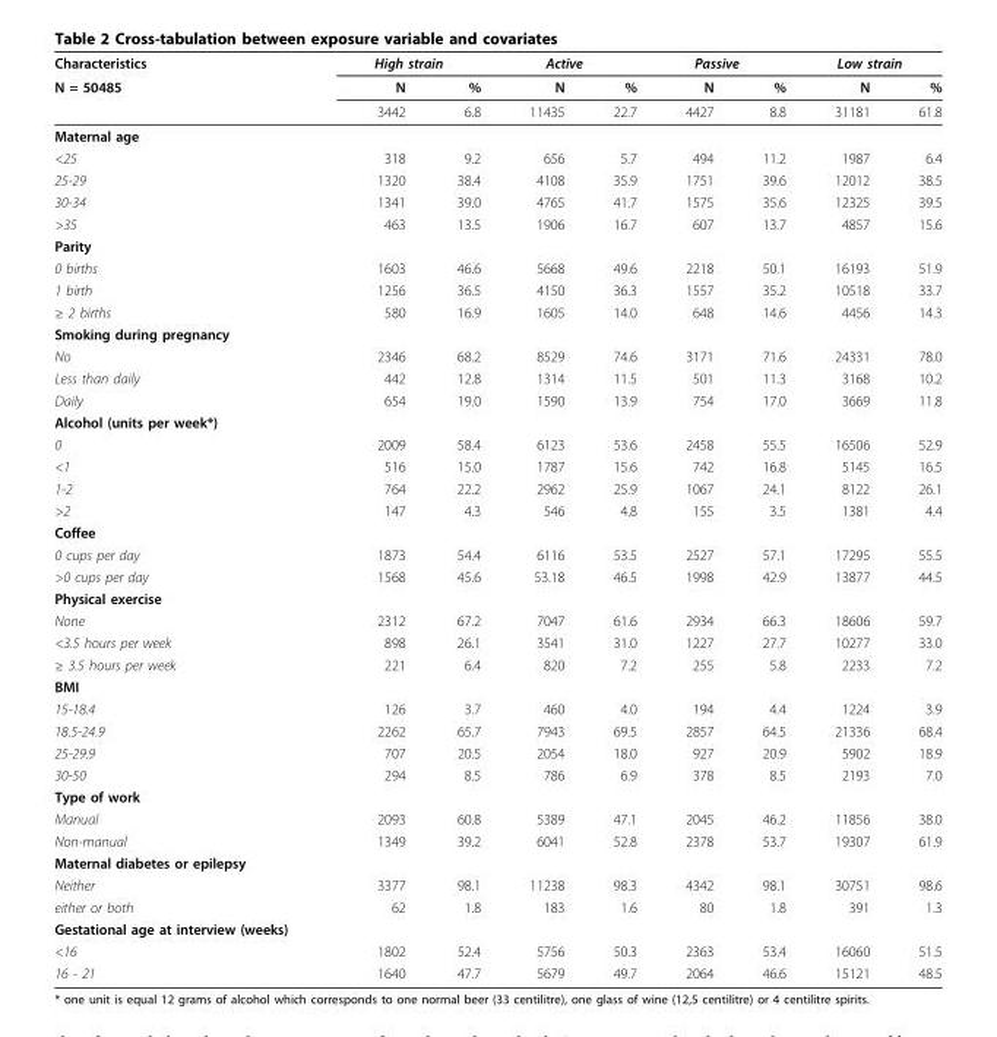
<table><thead><tr><td rowspan="3">Characteristics N = 50485</td><td colspan="2">High strain</td><td colspan="2">Active</td><td colspan="2">Passive</td><td colspan="2">Low strain</td></tr><tr><td rowspan="2">N 3442</td><td rowspan="2">% 6.8</td><td rowspan="2">N 11435</td><td rowspan="2">% 22.7</td><td rowspan="2">N 4427</td><td rowspan="2">% 8.8</td><td rowspan="2">N 31181</td><td rowspan="2">% 61.8</td></tr><tr></tr></thead><tbody><tr><td colspan="9">Maternal age</td></tr><tr><td>&lt;25</td><td>318</td><td>9.2</td><td>656</td><td>5.7</td><td>494</td><td>11.2</td><td>1987</td><td>6.4</td></tr><tr><td>25-29</td><td>1320</td><td>38.4</td><td>4108</td><td>35.9</td><td>1751</td><td>39.6</td><td>12012</td><td>38.5</td></tr><tr><td>30-34</td><td>1341</td><td>39.0</td><td>4765</td><td>41.7</td><td>1575</td><td>35.6</td><td>12325</td><td>39.5</td></tr><tr><td>&gt;35</td><td>463</td><td>13.5</td><td>1906</td><td>16.7</td><td>607</td><td>13.7</td><td>4857</td><td>15.6</td></tr><tr><td colspan="9">Parity</td></tr><tr><td>0 births</td><td>1603</td><td>46.6</td><td>5668</td><td>49.6</td><td>2218</td><td>50.1</td><td>16193</td><td>51.9</td></tr><tr><td>1 birth</td><td>1256</td><td>36.5</td><td>4150</td><td>36.3</td><td>1557</td><td>35.2</td><td>10518</td><td>33.7</td></tr><tr><td>≥ 2 births</td><td>580</td><td>16.9</td><td>1605</td><td>14.0</td><td>648</td><td>14.6</td><td>4456</td><td>14.3</td></tr><tr><td colspan="9">Smoking during pregnancy</td></tr><tr><td>No</td><td>2346</td><td>68.2</td><td>8529</td><td>74.6</td><td>3171</td><td>71.6</td><td>24331</td><td>78.0</td></tr><tr><td>Less than daily</td><td>442</td><td>12.8</td><td>1314</td><td>11.5</td><td>501</td><td>11.3</td><td>3168</td><td>10.2</td></tr><tr><td>Daily</td><td>654</td><td>19.0</td><td>1590</td><td>13.9</td><td>754</td><td>17.0</td><td>3669</td><td>11.8</td></tr><tr><td colspan="9">Alcohol (units per week*)</td></tr><tr><td>0</td><td>2009</td><td>58.4</td><td>6123</td><td>53.6</td><td>2458</td><td>55.5</td><td>16506</td><td>52.9</td></tr><tr><td>&lt;1</td><td>516</td><td>15.0</td><td>1787</td><td>15.6</td><td>742</td><td>16.8</td><td>5145</td><td>16.5</td></tr><tr><td>1-2</td><td>764</td><td>22.2</td><td>2962</td><td>25.9</td><td>1067</td><td>24.1</td><td>8122</td><td>26.1</td></tr><tr><td>&gt;2</td><td>147</td><td>4.3</td><td>546</td><td>4.8</td><td>155</td><td>3.5</td><td>1381</td><td>4.4</td></tr><tr><td colspan="9">Coffee</td></tr><tr><td>0 cups per day</td><td>1873</td><td>54.4</td><td>6116</td><td>53.5</td><td>2527</td><td>57.1</td><td>17295</td><td>55.5</td></tr><tr><td>&gt;0 cups per day</td><td>1568</td><td>45.6</td><td>53.18</td><td>46.5</td><td>1998</td><td>42.9</td><td>13877</td><td>44.5</td></tr><tr><td colspan="9">Physical exercise</td></tr><tr><td>None</td><td>2312</td><td>67.2</td><td>7047</td><td>61.6</td><td>2934</td><td>66.3</td><td>18606</td><td>59.7</td></tr><tr><td>&lt;3.5 hours per week</td><td>898</td><td>26.1</td><td>3541</td><td>31.0</td><td>1227</td><td>27.7</td><td>10277</td><td>33.0</td></tr><tr><td>≥ 3.5 hours per week</td><td>221</td><td>6.4</td><td>820</td><td>7.2</td><td>255</td><td>5.8</td><td>2233</td><td>7.2</td></tr><tr><td colspan="9">BMI</td></tr><tr><td>15-18.4</td><td>126</td><td>3.7</td><td>460</td><td>4.0</td><td>194</td><td>4.4</td><td>1224</td><td>3.9</td></tr><tr><td>18.5-24.9</td><td>2262</td><td>65.7</td><td>7943</td><td>69.5</td><td>2857</td><td>64.5</td><td>21336</td><td>68.4</td></tr><tr><td>25-29.9</td><td>707</td><td>20.5</td><td>2054</td><td>18.0</td><td>927</td><td>20.9</td><td>5902</td><td>18.9</td></tr><tr><td>30-50</td><td>294</td><td>8.5</td><td>786</td><td>6.9</td><td>378</td><td>8.5</td><td>2193</td><td>7.0</td></tr><tr><td colspan="9">Type of work</td></tr><tr><td>Manual</td><td>2093</td><td>60.8</td><td>5389</td><td>47.1</td><td>2045</td><td>46.2</td><td>11856</td><td>38.0</td></tr><tr><td>Non-manual</td><td>1349</td><td>39.2</td><td>6041</td><td>52.8</td><td>2378</td><td>53.7</td><td>19307</td><td>61.9</td></tr><tr><td colspan="9">Maternal diabetes or epilepsy</td></tr><tr><td>Neither</td><td>3377</td><td>98.1</td><td>11238</td><td>98.3</td><td>4342</td><td>98.1</td><td>30751</td><td>98.6</td></tr><tr><td>either or both</td><td>62</td><td>1.8</td><td>183</td><td>1.6</td><td>80</td><td>1.8</td><td>391</td><td>1.3</td></tr><tr><td colspan="9">Gestational age at interview (weeks)</td></tr><tr><td>&lt;16</td><td>1802</td><td>52.4</td><td>5756</td><td>50.3</td><td>2363</td><td>53.4</td><td>16060</td><td>51.5</td></tr><tr><td>16 - 21</td><td>1640</td><td>47.7</td><td>5679</td><td>49.7</td><td>2064</td><td>46.6</td><td>15121</td><td>48.5</td></tr></tbody></table>